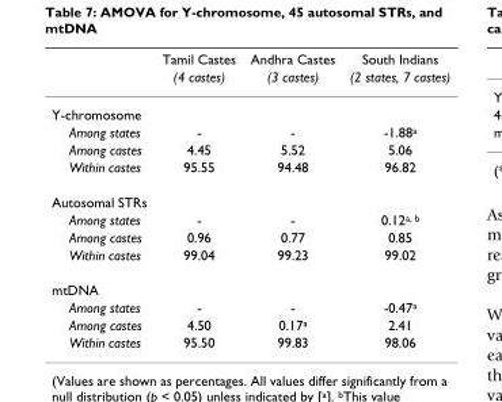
<table><thead><tr><td rowspan="2"></td><td rowspan="2">Tamil Castes (4 castes)</td><td rowspan="2">Andhra Castes (3 castes)</td><td rowspan="2">South Indians (2 states, 7 castes)</td></tr><tr></tr></thead><tbody><tr><td colspan="4">Y-chromosome</td></tr><tr><td>Among states</td><td>-</td><td>-</td><td>-1.88<sup>a</sup></td></tr><tr><td>Among castes</td><td>4.45</td><td>5.52</td><td>5.06</td></tr><tr><td>Within castes</td><td>95.55</td><td>94.48</td><td>96.82</td></tr><tr><td colspan="4">Autosomal STRs</td></tr><tr><td>Among states</td><td>-</td><td>-</td><td>0.12<sup>a, b</sup></td></tr><tr><td>Among castes</td><td>0.96</td><td>0.77</td><td>0.85</td></tr><tr><td>Within castes</td><td>99.04</td><td>99.23</td><td>99.02</td></tr><tr><td colspan="4">mtDNA</td></tr><tr><td>Among states</td><td>-</td><td>-</td><td>-0.47<sup>a</sup></td></tr><tr><td>Among castes</td><td>4.50</td><td>0.17<sup>a</sup></td><td>2.41</td></tr><tr><td>Within castes</td><td>95.50</td><td>99.83</td><td>98.06</td></tr></tbody></table>